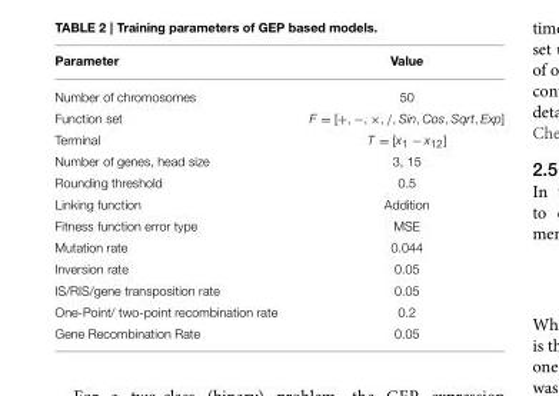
<table><thead><tr><td>Parameter</td><td>Value</td></tr></thead><tbody><tr><td>Number of chromosomes</td><td>50</td></tr><tr><td>Function set</td><td>F = [+, −, ×, /, Sin, Cos, Sqrt, Exp]</td></tr><tr><td>Terminal</td><td>T = [x<sub>1</sub> − x<sub>12</sub>]</td></tr><tr><td>Number of genes, head size</td><td>3, 15</td></tr><tr><td>Rounding threshold</td><td>0.5</td></tr><tr><td>Linking function</td><td>Addition</td></tr><tr><td>Fitness function error type</td><td>MSE</td></tr><tr><td>Mutation rate</td><td>0.044</td></tr><tr><td>Inversion rate</td><td>0.05</td></tr><tr><td>IS/RIS/gene transposition rate</td><td>0.05</td></tr><tr><td>One-Point/ two-point recombination rate</td><td>0.2</td></tr><tr><td>Gene Recombination Rate</td><td>0.05</td></tr></tbody></table>